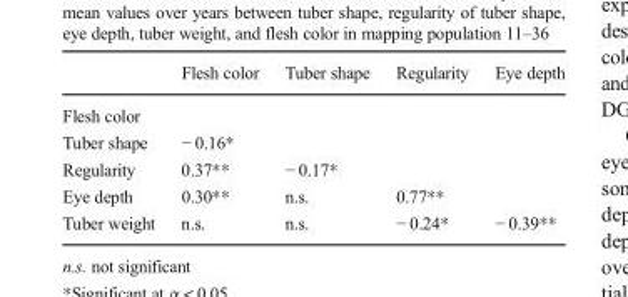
<table><thead><tr><td></td><td>Flesh color</td><td>Tuber shape</td><td>Regularity</td><td>Eye depth</td></tr></thead><tbody><tr><td colspan="5">Flesh color</td></tr><tr><td>Tuber shape</td><td>− 0.16*</td><td></td><td></td><td></td></tr><tr><td>Regularity</td><td>0.37**</td><td>− 0.17*</td><td></td><td></td></tr><tr><td>Eye depth</td><td>0.30**</td><td>n.s.</td><td>0.77**</td><td></td></tr><tr><td>Tuber weight</td><td>n.s.</td><td>n.s.</td><td>− 0.24*</td><td>− 0.39**</td></tr></tbody></table>